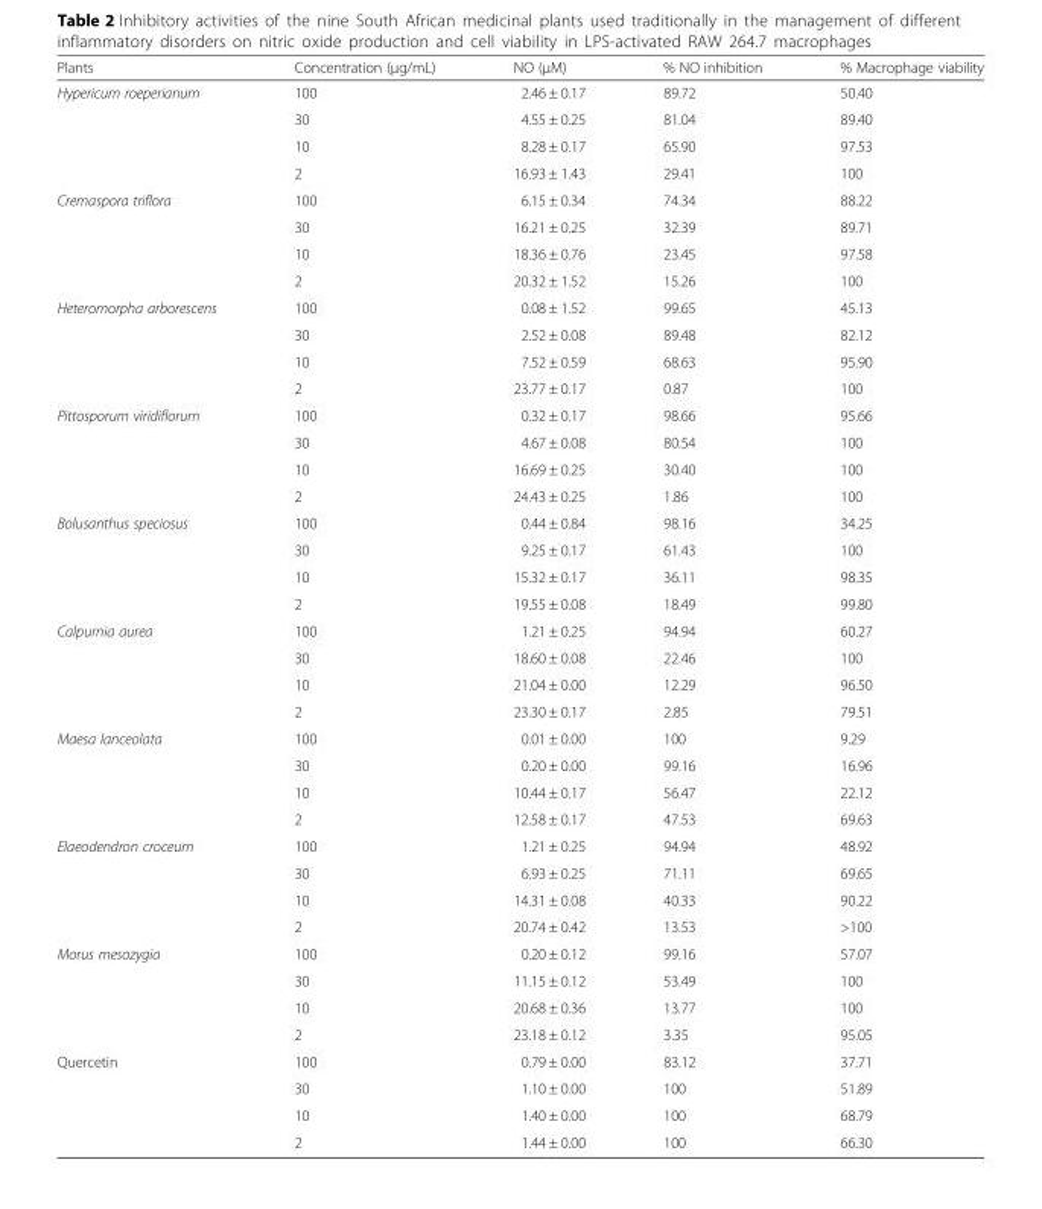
<table><thead><tr><td>Plants</td><td>Concentration (μg/mL)</td><td>NO (μM)</td><td>% NO inhibition</td><td>% Macrophage viability</td></tr></thead><tbody><tr><td rowspan="4">Hypericum roeperianum</td><td>100</td><td>2.46 ± 0.17</td><td>89.72</td><td>50.40</td></tr><tr><td>30</td><td>4.55 ± 0.25</td><td>81.04</td><td>89.40</td></tr><tr><td>10</td><td>8.28 ± 0.17</td><td>65.90</td><td>97.53</td></tr><tr><td>2</td><td>16.93 ± 1.43</td><td>29.41</td><td>100</td></tr><tr><td rowspan="4">Cremaspora triflora</td><td>100</td><td>6.15 ± 0.34</td><td>74.34</td><td>88.22</td></tr><tr><td>30</td><td>16.21 ± 0.25</td><td>32.39</td><td>89.71</td></tr><tr><td>10</td><td>18.36 ± 0.76</td><td>23.45</td><td>97.58</td></tr><tr><td>2</td><td>20.32 ± 1.52</td><td>15.26</td><td>100</td></tr><tr><td rowspan="4">Heteromorpha arborescens</td><td>100</td><td>0.08 ± 1.52</td><td>99.65</td><td>45.13</td></tr><tr><td>30</td><td>2.52 ± 0.08</td><td>89.48</td><td>82.12</td></tr><tr><td>10</td><td>7.52 ± 0.59</td><td>68.63</td><td>95.90</td></tr><tr><td>2</td><td>23.77 ± 0.17</td><td>0.87</td><td>100</td></tr><tr><td rowspan="4">Pittosporum viridiflorum</td><td>100</td><td>0.32 ± 0.17</td><td>98.66</td><td>95.66</td></tr><tr><td>30</td><td>4.67 ± 0.08</td><td>80.54</td><td>100</td></tr><tr><td>10</td><td>16.69 ± 0.25</td><td>30.40</td><td>100</td></tr><tr><td>2</td><td>24.43 ± 0.25</td><td>1.86</td><td>100</td></tr><tr><td rowspan="4">Bolusanthus speciosus</td><td>100</td><td>0.44 ± 0.84</td><td>98.16</td><td>34.25</td></tr><tr><td>30</td><td>9.25 ± 0.17</td><td>61.43</td><td>100</td></tr><tr><td>10</td><td>15.32 ± 0.17</td><td>36.11</td><td>98.35</td></tr><tr><td>2</td><td>19.55 ± 0.08</td><td>18.49</td><td>99.80</td></tr><tr><td rowspan="4">Calpurnia aurea</td><td>100</td><td>1.21 ± 0.25</td><td>94.94</td><td>60.27</td></tr><tr><td>30</td><td>18.60 ± 0.08</td><td>22.46</td><td>100</td></tr><tr><td>10</td><td>21.04 ± 0.00</td><td>12.29</td><td>96.50</td></tr><tr><td>2</td><td>23.30 ± 0.17</td><td>2.85</td><td>79.51</td></tr><tr><td rowspan="4">Maesa lanceolata</td><td>100</td><td>0.01 ± 0.00</td><td>100</td><td>9.29</td></tr><tr><td>30</td><td>0.20 ± 0.00</td><td>99.16</td><td>16.96</td></tr><tr><td>10</td><td>10.44 ± 0.17</td><td>56.47</td><td>22.12</td></tr><tr><td>2</td><td>12.58 ± 0.17</td><td>47.53</td><td>69.63</td></tr><tr><td rowspan="4">Elaeodendron croceum</td><td>100</td><td>1.21 ± 0.25</td><td>94.94</td><td>48.92</td></tr><tr><td>30</td><td>6.93 ± 0.25</td><td>71.11</td><td>69.65</td></tr><tr><td>10</td><td>14.31 ± 0.08</td><td>40.33</td><td>90.22</td></tr><tr><td>2</td><td>20.74 ± 0.42</td><td>13.53</td><td>&gt;100</td></tr><tr><td rowspan="4">Morus mesozygia</td><td>100</td><td>0.20 ± 0.12</td><td>99.16</td><td>57.07</td></tr><tr><td>30</td><td>11.15 ± 0.12</td><td>53.49</td><td>100</td></tr><tr><td>10</td><td>20.68 ± 0.36</td><td>13.77</td><td>100</td></tr><tr><td>2</td><td>23.18 ± 0.12</td><td>3.35</td><td>95.05</td></tr><tr><td rowspan="4">Quercetin</td><td>100</td><td>0.79 ± 0.00</td><td>83.12</td><td>37.71</td></tr><tr><td>30</td><td>1.10 ± 0.00</td><td>100</td><td>51.89</td></tr><tr><td>10</td><td>1.40 ± 0.00</td><td>100</td><td>68.79</td></tr><tr><td>2</td><td>1.44 ± 0.00</td><td>100</td><td>66.30</td></tr></tbody></table>